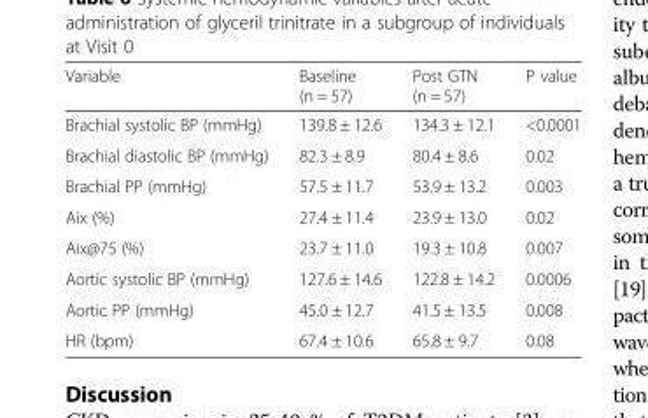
<table><thead><tr><td>Variable</td><td>Baseline (n = 57)</td><td>Post GTN (n = 57)</td><td>P value</td></tr></thead><tbody><tr><td>Brachial systolic BP (mmHg)</td><td>139.8 ± 12.6</td><td>134.3 ± 12.1</td><td>&lt;0.0001</td></tr><tr><td>Brachial diastolic BP (mmHg)</td><td>82.3 ± 8.9</td><td>80.4 ± 8.6</td><td>0.02</td></tr><tr><td>Brachial PP (mmHg)</td><td>57.5 ± 11.7</td><td>53.9 ± 13.2</td><td>0.003</td></tr><tr><td>Aix (%)</td><td>27.4 ± 11.4</td><td>23.9 ± 13.0</td><td>0.02</td></tr><tr><td>Aix@75 (%)</td><td>23.7 ± 11.0</td><td>19.3 ± 10.8</td><td>0.007</td></tr><tr><td>Aortic systolic BP (mmHg)</td><td>127.6 ± 14.6</td><td>122.8 ± 14.2</td><td>0.0006</td></tr><tr><td>Aortic PP (mmHg)</td><td>45.0 ± 12.7</td><td>41.5 ± 13.5</td><td>0.008</td></tr><tr><td>HR (bpm)</td><td>67.4 ± 10.6</td><td>65.8 ± 9.7</td><td>0.08</td></tr></tbody></table>